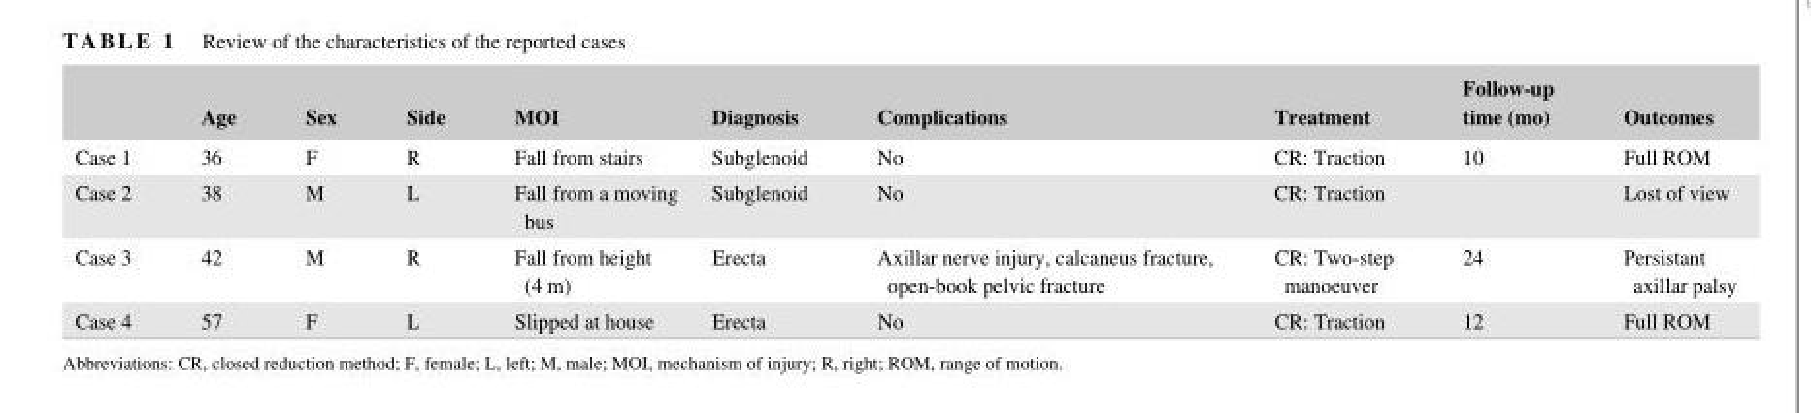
<table><thead><tr><td></td><td>Age</td><td>Sex</td><td>Side</td><td>MOI</td><td>Diagnosis</td><td>Complications</td><td>Treatment</td><td>Follow‐up time (mo)</td><td>Outcomes</td></tr></thead><tbody><tr><td>Case 1</td><td>36</td><td>F</td><td>R</td><td>Fall from stairs</td><td>Subglenoid</td><td>No</td><td>CR: Traction</td><td>10</td><td>Full ROM</td></tr><tr><td>Case 2</td><td>38</td><td>M</td><td>L</td><td>Fall from a moving bus</td><td>Subglenoid</td><td>No</td><td>CR: Traction</td><td></td><td>Lost of view</td></tr><tr><td>Case 3</td><td>42</td><td>M</td><td>R</td><td>Fall from height (4 m)</td><td>Erecta</td><td>Axillar nerve injury, calcaneus fracture, open‐book pelvic fracture</td><td>CR: Two‐step manoeuver</td><td>24</td><td>Persistant axillar palsy</td></tr><tr><td>Case 4</td><td>57</td><td>F</td><td>L</td><td>Slipped at house</td><td>Erecta</td><td>No</td><td>CR: Traction</td><td>12</td><td>Full ROM</td></tr></tbody></table>